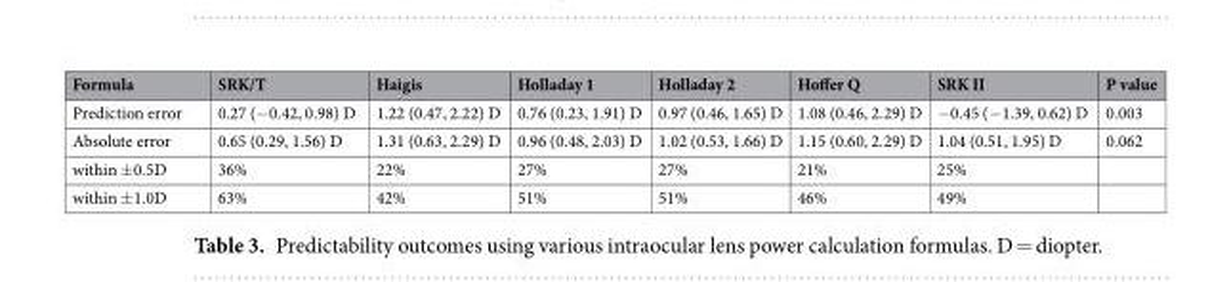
<table><thead><tr><td>Formula</td><td>SRK/T</td><td>Haigis</td><td>Holladay 1</td><td>Holladay 2</td><td>Hoffer Q</td><td>SRK II</td><td>P value</td></tr></thead><tbody><tr><td>Prediction error</td><td>0.27 (−0.42, 0.98) D</td><td>1.22 (0.47, 2.22) D</td><td>0.76 (0.23, 1.91) D</td><td>0.97 (0.46, 1.65) D</td><td>1.08 (0.46, 2.29) D</td><td>−0.45 (−1.39, 0.62) D</td><td>0.003</td></tr><tr><td>Absolute error</td><td>0.65 (0.29, 1.56) D</td><td>1.31 (0.63, 2.29) D</td><td>0.96 (0.48, 2.03) D</td><td>1.02 (0.53, 1.66) D</td><td>1.15 (0.60, 2.29) D</td><td>1.04 (0.51, 1.95) D</td><td>0.062</td></tr><tr><td>within ±0.5D</td><td>36%</td><td>22%</td><td>27%</td><td>27%</td><td>21%</td><td>25%</td><td></td></tr><tr><td>within ±1.0D</td><td>63%</td><td>42%</td><td>51%</td><td>51%</td><td>46%</td><td>49%</td><td></td></tr></tbody></table>